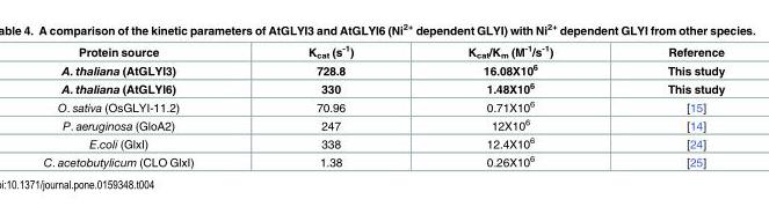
<table><thead><tr><td>Protein source</td><td>K<sub>cat</sub> (s<sup>-1</sup>)</td><td>K<sub>cat</sub>/K<sub>m</sub> (M<sup>-1</sup>/s<sup>-1</sup>)</td><td>Reference</td></tr></thead><tbody><tr><td>A. thaliana (AtGLYI3)</td><td>728.8</td><td>16.08X10<sup>6</sup></td><td>This study</td></tr><tr><td>A. thaliana (AtGLYI6)</td><td>330</td><td>1.48X10<sup>6</sup></td><td>This study</td></tr><tr><td>O. sativa (OsGLYI-11.2)</td><td>70.96</td><td>0.71X10<sup>6</sup></td><td>[15]</td></tr><tr><td>P. aeruginosa (GloA2)</td><td>247</td><td>12X10<sup>6</sup></td><td>[14]</td></tr><tr><td>E.coli (GlxI)</td><td>338</td><td>12.4X10<sup>6</sup></td><td>[24]</td></tr><tr><td>C. acetobutylicum (CLO GlxI)</td><td>1.38</td><td>0.26X10<sup>6</sup></td><td>[25]</td></tr></tbody></table>